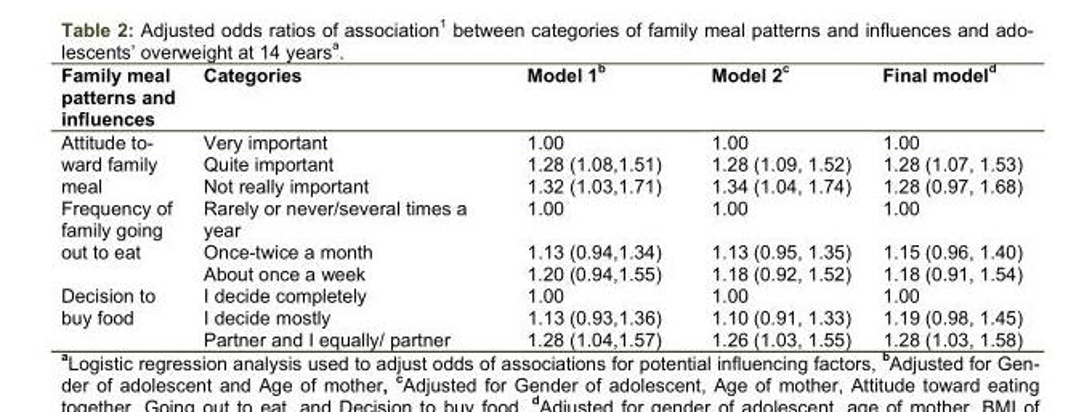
<table><thead><tr><td>Family meal patterns and influences</td><td>Categories</td><td>Model 1<sup>b</sup></td><td>Model 2c</td><td>Final modeld</td></tr></thead><tbody><tr><td rowspan="6">Attitude to- ward family meal Frequency of family going out to eat</td><td>Very important</td><td>1.00</td><td>1.00</td><td>1.00</td></tr><tr><td>Quite important</td><td>1.28 (1.08,1.51)</td><td>1.28 (1.09, 1.52)</td><td>1.28 (1.07, 1.53)</td></tr><tr><td>Not really important</td><td>1.32 (1.03,1.71)</td><td>1.34 (1.04, 1.74)</td><td>1.28 (0.97, 1.68)</td></tr><tr><td>Rarely or never/several times a year</td><td>1.00</td><td>1.00</td><td>1.00</td></tr><tr><td>Once-twice a month</td><td>1.13 (0.94,1.34)</td><td>1.13 (0.95, 1.35)</td><td>1.15 (0.96, 1.40)</td></tr><tr><td>About once a week</td><td>1.20 (0.94,1.55)</td><td>1.18 (0.92, 1.52)</td><td>1.18 (0.91, 1.54)</td></tr><tr><td rowspan="3">Decision to buy food</td><td>I decide completely</td><td>1.00</td><td>1.00</td><td>1.00</td></tr><tr><td>I decide mostly</td><td>1.13 (0.93,1.36)</td><td>1.10 (0.91, 1.33)</td><td>1.19 (0.98, 1.45)</td></tr><tr><td>Partner and I equally/ partner</td><td>1.28 (1.04,1.57)</td><td>1.26 (1.03, 1.55)</td><td>1.28 (1.03, 1.58)</td></tr></tbody></table>